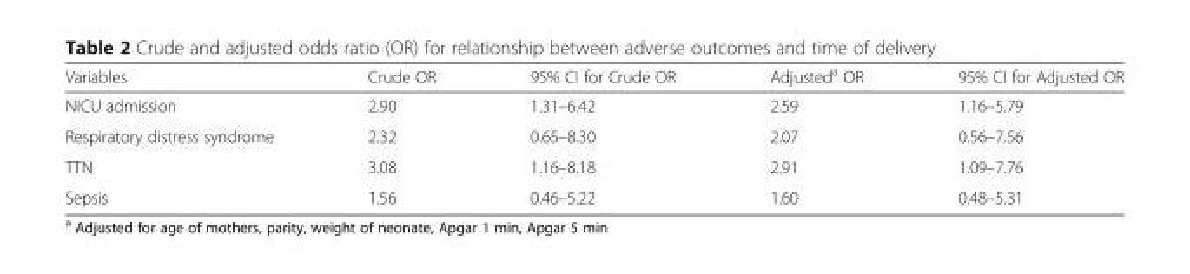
<table><thead><tr><td>Variables</td><td>Crude OR</td><td>95% CI for Crude OR</td><td>Adjusted<sup>a</sup> OR</td><td>95% CI for Adjusted OR</td></tr></thead><tbody><tr><td>NICU admission</td><td>2.90</td><td>1.31–6.42</td><td>2.59</td><td>1.16–5.79</td></tr><tr><td>Respiratory distress syndrome</td><td>2.32</td><td>0.65–8.30</td><td>2.07</td><td>0.56–7.56</td></tr><tr><td>TTN</td><td>3.08</td><td>1.16–8.18</td><td>2.91</td><td>1.09–7.76</td></tr><tr><td>Sepsis</td><td>1.56</td><td>0.46–5.22</td><td>1.60</td><td>0.48–5.31</td></tr></tbody></table>